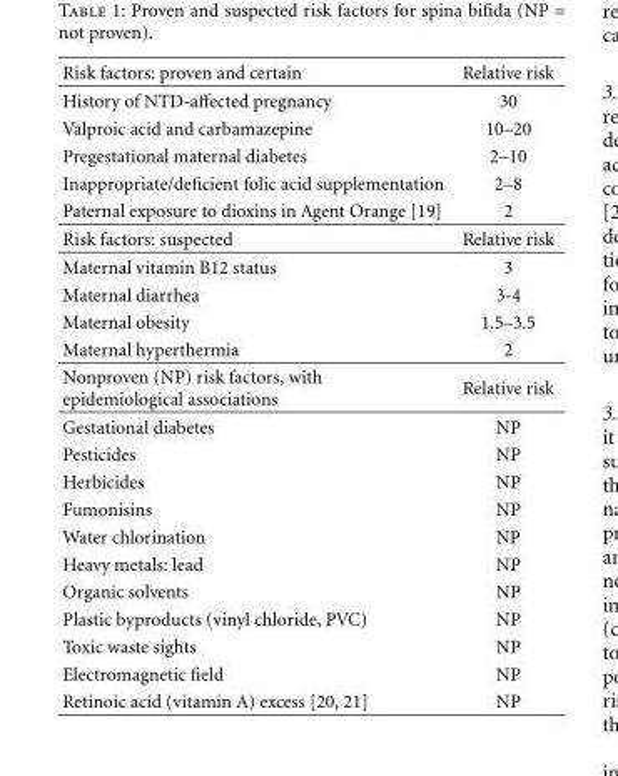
<table><thead><tr><td>Risk factors: proven and certain</td><td>Relative risk</td></tr></thead><tbody><tr><td>History of NTD-affected pregnancy</td><td>30</td></tr><tr><td>Valproic acid and carbamazepine</td><td>10–20</td></tr><tr><td>Pregestational maternal diabetes</td><td>2–10</td></tr><tr><td>Inappropriate/deficient folic acid supplementation</td><td>2–8</td></tr><tr><td>Paternal exposure to dioxins in Agent Orange [19]</td><td>2</td></tr><tr><td>Risk factors: suspected</td><td>Relative risk</td></tr><tr><td>Maternal vitamin B12 status</td><td>3</td></tr><tr><td>Maternal diarrhea</td><td>3-4</td></tr><tr><td>Maternal obesity</td><td>1.5–3.5</td></tr><tr><td>Maternal hyperthermia</td><td>2</td></tr><tr><td>Nonproven (NP) risk factors, with epidemiological associations</td><td>Relative risk</td></tr><tr><td>Gestational diabetes</td><td>NP</td></tr><tr><td>Pesticides</td><td>NP</td></tr><tr><td>Herbicides</td><td>NP</td></tr><tr><td>Fumonisins</td><td>NP</td></tr><tr><td>Water chlorination</td><td>NP</td></tr><tr><td>Heavy metals: lead</td><td>NP</td></tr><tr><td>Organic solvents</td><td>NP</td></tr><tr><td>Plastic byproducts (vinyl chloride, PVC)</td><td>NP</td></tr><tr><td>Toxic waste sights</td><td>NP</td></tr><tr><td>Electromagnetic field</td><td>NP</td></tr><tr><td>Retinoic acid (vitamin A) excess [20, 21]</td><td>NP</td></tr></tbody></table>